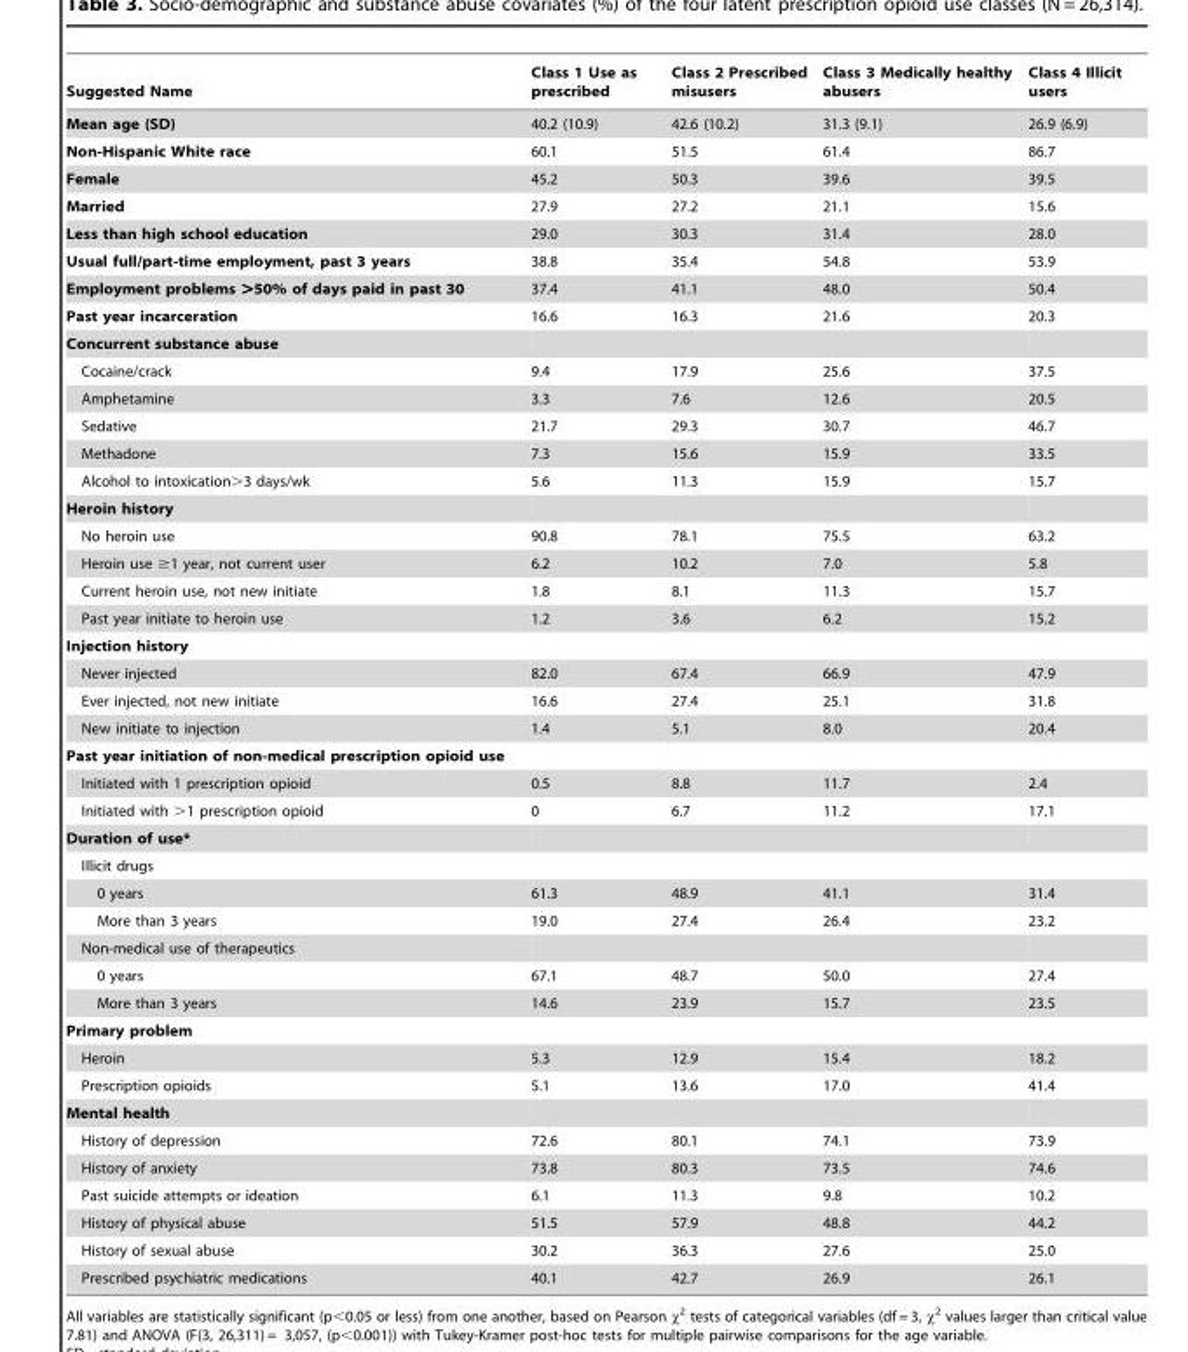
<table><thead><tr><td>Suggested Name</td><td>Class 1 Use as prescribed</td><td>Class 2 Prescribed misusers</td><td>Class 3 Medically healthy abusers</td><td>Class 4 Illicit users</td></tr></thead><tbody><tr><td>Mean age (SD)</td><td>40.2 (10.9)</td><td>42.6 (10.2)</td><td>31.3 (9.1)</td><td>26.9 (6.9)</td></tr><tr><td>Non-Hispanic White race</td><td>60.1</td><td>51.5</td><td>61.4</td><td>86.7</td></tr><tr><td>Female</td><td>45.2</td><td>50.3</td><td>39.6</td><td>39.5</td></tr><tr><td>Married</td><td>27.9</td><td>27.2</td><td>21.1</td><td>15.6</td></tr><tr><td>Less than high school education</td><td>29.0</td><td>30.3</td><td>31.4</td><td>28.0</td></tr><tr><td>Usual full/part-time employment, past 3 years</td><td>38.8</td><td>35.4</td><td>54.8</td><td>53.9</td></tr><tr><td>Employment problems &gt;50% of days paid in past 30</td><td>37.4</td><td>41.1</td><td>48.0</td><td>50.4</td></tr><tr><td>Past year incarceration</td><td>16.6</td><td>16.3</td><td>21.6</td><td>20.3</td></tr><tr><td colspan="5">Concurrent substance abuse</td></tr><tr><td>Cocaine/crack</td><td>9.4</td><td>17.9</td><td>25.6</td><td>37.5</td></tr><tr><td>Amphetamine</td><td>3.3</td><td>7.6</td><td>12.6</td><td>20.5</td></tr><tr><td>Sedative</td><td>21.7</td><td>29.3</td><td>30.7</td><td>46.7</td></tr><tr><td>Methadone</td><td>7.3</td><td>15.6</td><td>15.9</td><td>33.5</td></tr><tr><td>Alcohol to intoxication&gt;3 days/wk</td><td>5.6</td><td>11.3</td><td>15.9</td><td>15.7</td></tr><tr><td colspan="5">Heroin history</td></tr><tr><td>No heroin use</td><td>90.8</td><td>78.1</td><td>75.5</td><td>63.2</td></tr><tr><td>Heroin use ≥1 year, not current user</td><td>6.2</td><td>10.2</td><td>7.0</td><td>5.8</td></tr><tr><td>Current heroin use, not new initiate</td><td>1.8</td><td>8.1</td><td>11.3</td><td>15.7</td></tr><tr><td>Past year initiate to heroin use</td><td>1.2</td><td>3.6</td><td>6.2</td><td>15.2</td></tr><tr><td colspan="5">Injection history</td></tr><tr><td>Never injected</td><td>82.0</td><td>67.4</td><td>66.9</td><td>47.9</td></tr><tr><td>Ever injected, not new initiate</td><td>16.6</td><td>27.4</td><td>25.1</td><td>31.8</td></tr><tr><td>New initiate to injection</td><td>1.4</td><td>5.1</td><td>8.0</td><td>20.4</td></tr><tr><td colspan="5">Past year initiation of non-medical prescription opioid use</td></tr><tr><td>Initiated with 1 prescription opioid</td><td>0.5</td><td>8.8</td><td>11.7</td><td>2.4</td></tr><tr><td>Initiated with &gt;1 prescription opioid</td><td>0</td><td>6.7</td><td>11.2</td><td>17.1</td></tr><tr><td colspan="5">Duration of use*</td></tr><tr><td colspan="5">Illicit drugs</td></tr><tr><td>0 years</td><td>61.3</td><td>48.9</td><td>41.1</td><td>31.4</td></tr><tr><td>More than 3 years</td><td>19.0</td><td>27.4</td><td>26.4</td><td>23.2</td></tr><tr><td colspan="5">Non-medical use of therapeutics</td></tr><tr><td>0 years</td><td>67.1</td><td>48.7</td><td>50.0</td><td>27.4</td></tr><tr><td>More than 3 years</td><td>14.6</td><td>23.9</td><td>15.7</td><td>23.5</td></tr><tr><td colspan="5">Primary problem</td></tr><tr><td>Heroin</td><td>5.3</td><td>12.9</td><td>15.4</td><td>18.2</td></tr><tr><td>Prescription opioids</td><td>5.1</td><td>13.6</td><td>17.0</td><td>41.4</td></tr><tr><td colspan="5">Mental health</td></tr><tr><td>History of depression</td><td>72.6</td><td>80.1</td><td>74.1</td><td>73.9</td></tr><tr><td>History of anxiety</td><td>73.8</td><td>80.3</td><td>73.5</td><td>74.6</td></tr><tr><td>Past suicide attempts or ideation</td><td>6.1</td><td>11.3</td><td>9.8</td><td>10.2</td></tr><tr><td>History of physical abuse</td><td>51.5</td><td>57.9</td><td>48.8</td><td>44.2</td></tr><tr><td>History of sexual abuse</td><td>30.2</td><td>36.3</td><td>27.6</td><td>25.0</td></tr><tr><td>Prescribed psychiatric medications</td><td>40.1</td><td>42.7</td><td>26.9</td><td>26.1</td></tr></tbody></table>